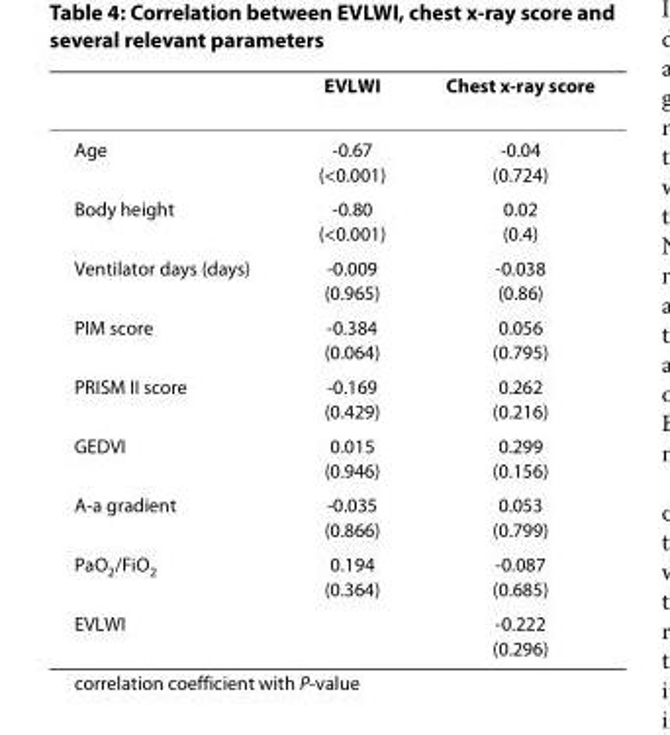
<table><thead><tr><td></td><td>EVLWI</td><td>Chest x-ray score</td></tr></thead><tbody><tr><td>Age</td><td>-0.67 (&lt;0.001)</td><td>-0.04 (0.724)</td></tr><tr><td>Body height</td><td>-0.80 (&lt;0.001)</td><td>0.02 (0.4)</td></tr><tr><td>Ventilator days (days)</td><td>-0.009 (0.965)</td><td>-0.038 (0.86)</td></tr><tr><td>PIM score</td><td>-0.384 (0.064)</td><td>0.056 (0.795)</td></tr><tr><td>PRISM II score</td><td>-0.169 (0.429)</td><td>0.262 (0.216)</td></tr><tr><td>GEDVI</td><td>0.015 (0.946)</td><td>0.299 (0.156)</td></tr><tr><td>A-a gradient</td><td>-0.035 (0.866)</td><td>0.053 (0.799)</td></tr><tr><td>PaO<sub>2</sub>/FiO<sub>2</sub></td><td>0.194 (0.364)</td><td>-0.087 (0.685)</td></tr><tr><td>EVLWI</td><td></td><td>-0.222 (0.296)</td></tr></tbody></table>